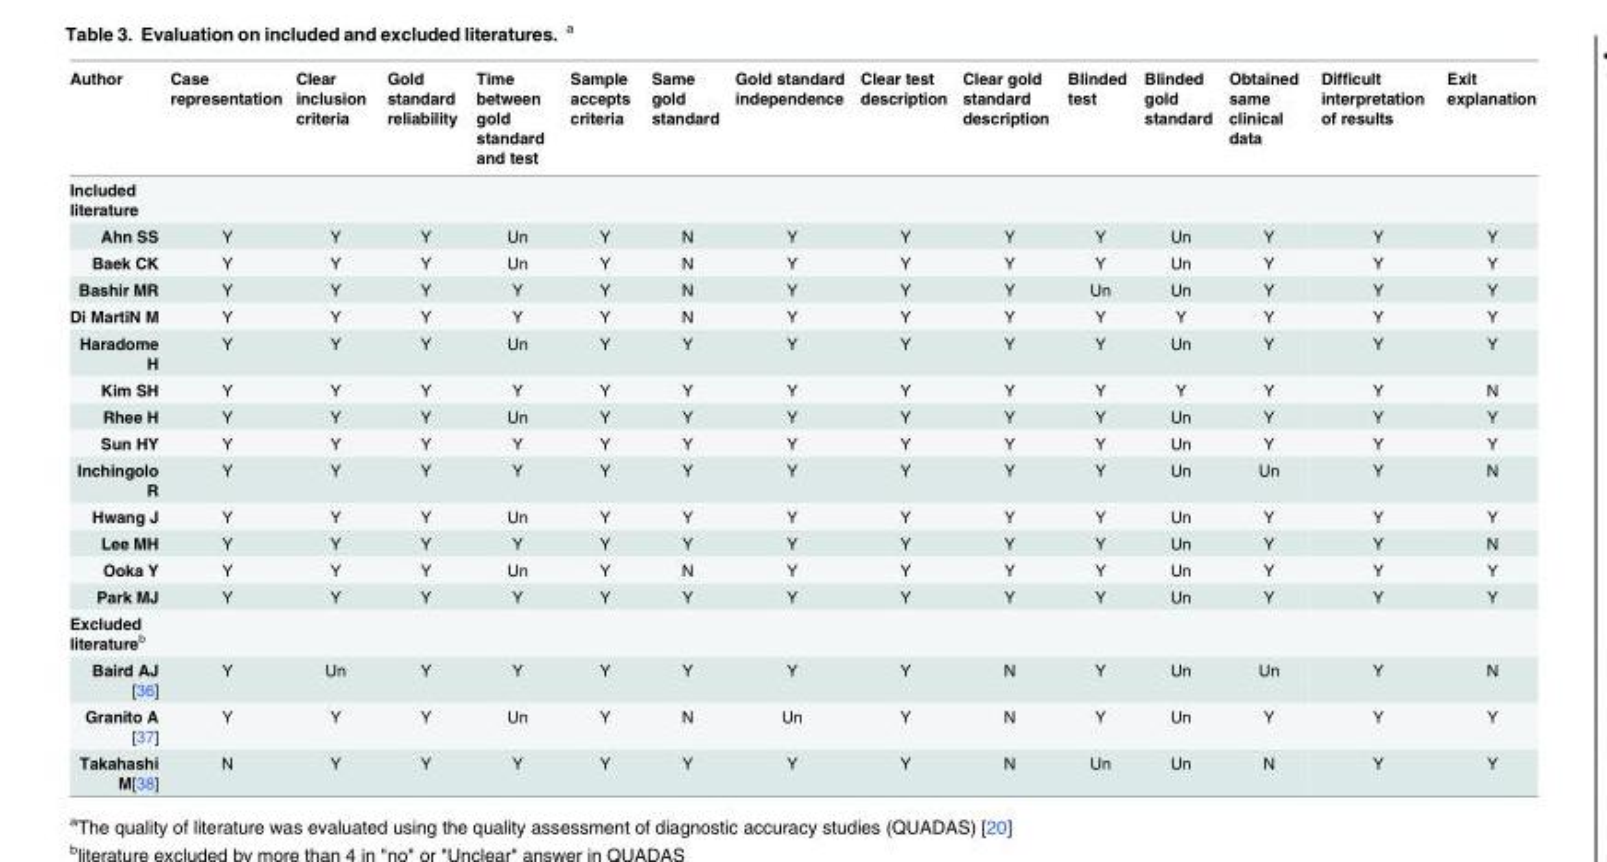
<table><thead><tr><td>Author</td><td>Case representation</td><td>Clear inclusion criteria</td><td>Gold standard reliability</td><td>Time between gold standard and test</td><td>Sample accepts criteria</td><td>Same gold standard</td><td>Gold standard independence</td><td>Clear test description</td><td>Clear gold standard description</td><td>Blinded test</td><td>Blinded gold standard</td><td>Obtained same clinical data</td><td>Difficult interpretation of results</td><td>Exit explanation</td></tr></thead><tbody><tr><td colspan="15">Included literature</td></tr><tr><td>Ahn SS</td><td>Y</td><td>Y</td><td>Y</td><td>Un</td><td>Y</td><td>N</td><td>Y</td><td>Y</td><td>Y</td><td>Y</td><td>Un</td><td>Y</td><td>Y</td><td>Y</td></tr><tr><td>Baek CK</td><td>Y</td><td>Y</td><td>Y</td><td>Un</td><td>Y</td><td>N</td><td>Y</td><td>Y</td><td>Y</td><td>Y</td><td>Un</td><td>Y</td><td>Y</td><td>Y</td></tr><tr><td>Bashir MR</td><td>Y</td><td>Y</td><td>Y</td><td>Y</td><td>Y</td><td>N</td><td>Y</td><td>Y</td><td>Y</td><td>Un</td><td>Un</td><td>Y</td><td>Y</td><td>Y</td></tr><tr><td>Di MartiN M</td><td>Y</td><td>Y</td><td>Y</td><td>Y</td><td>Y</td><td>N</td><td>Y</td><td>Y</td><td>Y</td><td>Y</td><td>Y</td><td>Y</td><td>Y</td><td>Y</td></tr><tr><td>Haradome H</td><td>Y</td><td>Y</td><td>Y</td><td>Un</td><td>Y</td><td>Y</td><td>Y</td><td>Y</td><td>Y</td><td>Y</td><td>Un</td><td>Y</td><td>Y</td><td>Y</td></tr><tr><td>Kim SH</td><td>Y</td><td>Y</td><td>Y</td><td>Y</td><td>Y</td><td>Y</td><td>Y</td><td>Y</td><td>Y</td><td>Y</td><td>Y</td><td>Y</td><td>Y</td><td>N</td></tr><tr><td>Rhee H</td><td>Y</td><td>Y</td><td>Y</td><td>Un</td><td>Y</td><td>Y</td><td>Y</td><td>Y</td><td>Y</td><td>Y</td><td>Un</td><td>Y</td><td>Y</td><td>Y</td></tr><tr><td>Sun HY</td><td>Y</td><td>Y</td><td>Y</td><td>Y</td><td>Y</td><td>Y</td><td>Y</td><td>Y</td><td>Y</td><td>Y</td><td>Un</td><td>Y</td><td>Y</td><td>Y</td></tr><tr><td>Inchingolo R</td><td>Y</td><td>Y</td><td>Y</td><td>Y</td><td>Y</td><td>Y</td><td>Y</td><td>Y</td><td>Y</td><td>Y</td><td>Un</td><td>Un</td><td>Y</td><td>N</td></tr><tr><td>Hwang J</td><td>Y</td><td>Y</td><td>Y</td><td>Un</td><td>Y</td><td>Y</td><td>Y</td><td>Y</td><td>Y</td><td>Y</td><td>Un</td><td>Y</td><td>Y</td><td>Y</td></tr><tr><td>Lee MH</td><td>Y</td><td>Y</td><td>Y</td><td>Y</td><td>Y</td><td>Y</td><td>Y</td><td>Y</td><td>Y</td><td>Y</td><td>Un</td><td>Y</td><td>Y</td><td>N</td></tr><tr><td>Ooka Y</td><td>Y</td><td>Y</td><td>Y</td><td>Un</td><td>Y</td><td>N</td><td>Y</td><td>Y</td><td>Y</td><td>Y</td><td>Un</td><td>Y</td><td>Y</td><td>Y</td></tr><tr><td>Park MJ</td><td>Y</td><td>Y</td><td>Y</td><td>Y</td><td>Y</td><td>Y</td><td>Y</td><td>Y</td><td>Y</td><td>Y</td><td>Un</td><td>Y</td><td>Y</td><td>Y</td></tr><tr><td colspan="15">Excluded literature<sup>b</sup></td></tr><tr><td>Baird AJ [36]</td><td>Y</td><td>Un</td><td>Y</td><td>Y</td><td>Y</td><td>Y</td><td>Y</td><td>Y</td><td>N</td><td>Y</td><td>Un</td><td>Un</td><td>Y</td><td>N</td></tr><tr><td>Granito A [37]</td><td>Y</td><td>Y</td><td>Y</td><td>Un</td><td>Y</td><td>N</td><td>Un</td><td>Y</td><td>N</td><td>Y</td><td>Un</td><td>Y</td><td>Y</td><td>Y</td></tr><tr><td>Takahashi M[38]</td><td>N</td><td>Y</td><td>Y</td><td>Y</td><td>Y</td><td>Y</td><td>Y</td><td>Y</td><td>N</td><td>Un</td><td>Un</td><td>N</td><td>Y</td><td>Y</td></tr></tbody></table>